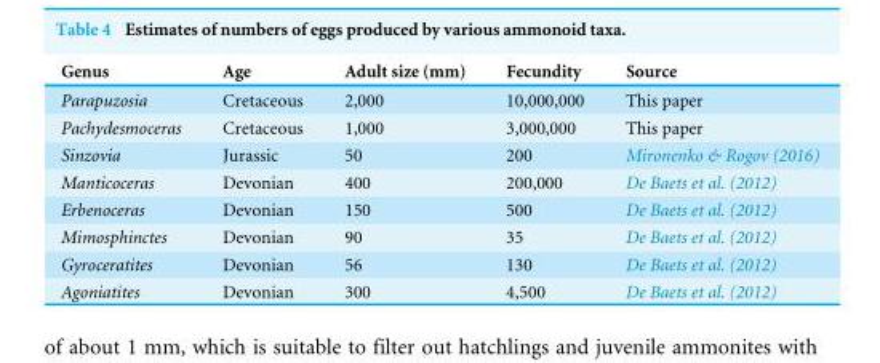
<table><thead><tr><td>Genus</td><td>Age</td><td>Adult size (mm)</td><td>Fecundity</td><td>Source</td></tr></thead><tbody><tr><td>Parapuzosia</td><td>Cretaceous</td><td>2,000</td><td>10,000,000</td><td>This paper</td></tr><tr><td>Pachydesmoceras</td><td>Cretaceous</td><td>1,000</td><td>3,000,000</td><td>This paper</td></tr><tr><td>Sinzovia</td><td>Jurassic</td><td>50</td><td>200</td><td>Mironenko &amp; Rogov (2016)</td></tr><tr><td>Manticoceras</td><td>Devonian</td><td>400</td><td>200,000</td><td>De Baets et al. (2012)</td></tr><tr><td>Erbenoceras</td><td>Devonian</td><td>150</td><td>500</td><td>De Baets et al. (2012)</td></tr><tr><td>Mimosphinctes</td><td>Devonian</td><td>90</td><td>35</td><td>De Baets et al. (2012)</td></tr><tr><td>Gyroceratites</td><td>Devonian</td><td>56</td><td>130</td><td>De Baets et al. (2012)</td></tr><tr><td>Agoniatites</td><td>Devonian</td><td>300</td><td>4,500</td><td>De Baets et al. (2012)</td></tr></tbody></table>